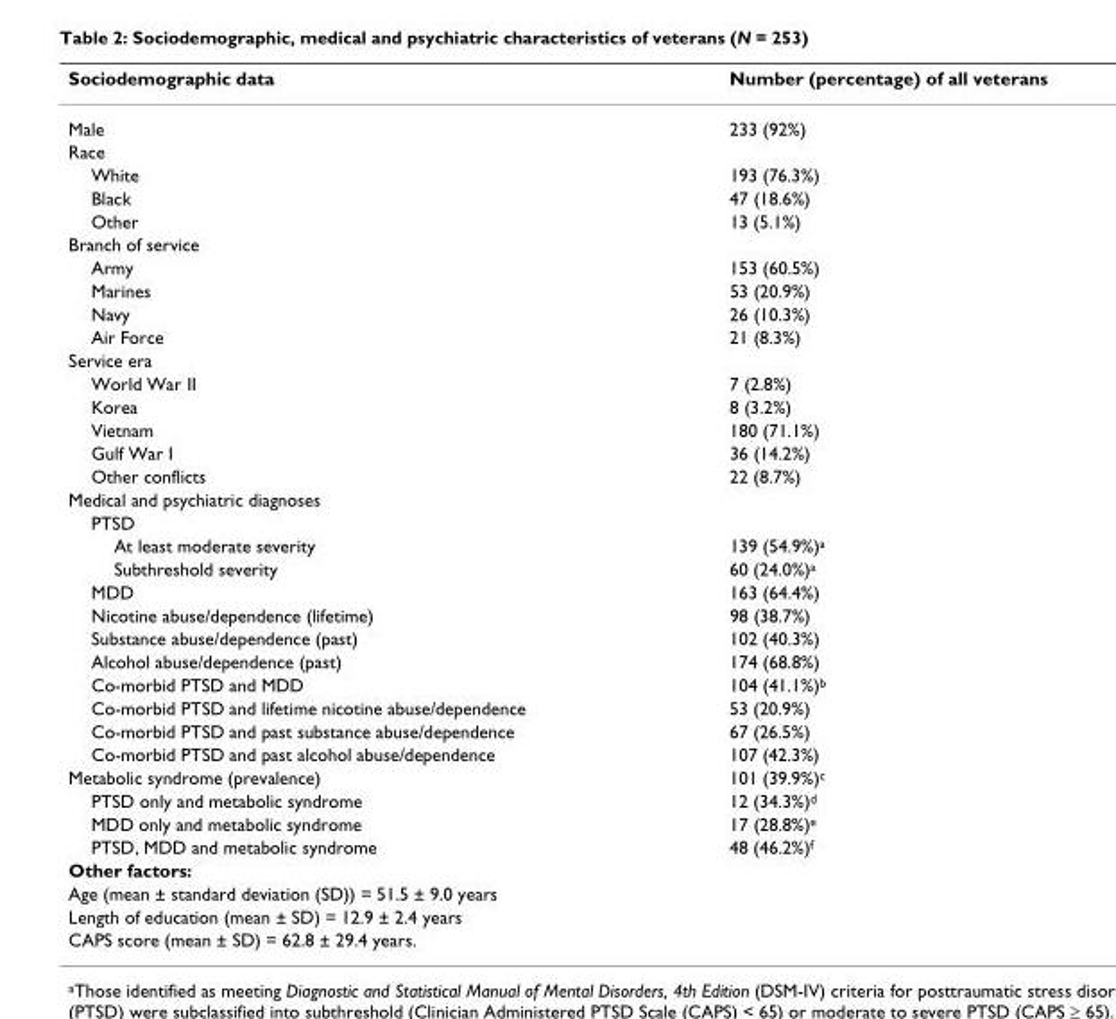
<table><thead><tr><td>Sociodemographic data</td><td>Number (percentage) of all veterans</td></tr></thead><tbody><tr><td>Male</td><td>233 (92%)</td></tr><tr><td colspan="2">Race</td></tr><tr><td>White</td><td>193 (76.3%)</td></tr><tr><td>Black</td><td>47 (18.6%)</td></tr><tr><td>Other</td><td>13 (5.1%)</td></tr><tr><td colspan="2">Branch of service</td></tr><tr><td>Army</td><td>153 (60.5%)</td></tr><tr><td>Marines</td><td>53 (20.9%)</td></tr><tr><td>Navy</td><td>26 (10.3%)</td></tr><tr><td>Air Force</td><td>21 (8.3%)</td></tr><tr><td colspan="2">Service era</td></tr><tr><td>World War II</td><td>7 (2.8%)</td></tr><tr><td>Korea</td><td>8 (3.2%)</td></tr><tr><td>Vietnam</td><td>180 (71.1%)</td></tr><tr><td>Gulf War I</td><td>36 (14.2%)</td></tr><tr><td>Other conflicts</td><td>22 (8.7%)</td></tr><tr><td colspan="2">Medical and psychiatric diagnoses</td></tr><tr><td colspan="2">PTSD</td></tr><tr><td>At least moderate severity</td><td>139 (54.9%)<sup>a</sup></td></tr><tr><td>Subthreshold severity</td><td>60 (24.0%)<sup>a</sup></td></tr><tr><td>MDD</td><td>163 (64.4%)</td></tr><tr><td>Nicotine abuse/dependence (lifetime)</td><td>98 (38.7%)</td></tr><tr><td>Substance abuse/dependence (past)</td><td>102 (40.3%)</td></tr><tr><td>Alcohol abuse/dependence (past)</td><td>174 (68.8%)</td></tr><tr><td>Co-morbid PTSD and MDD</td><td>104 (41.1%)<sup>b</sup></td></tr><tr><td>Co-morbid PTSD and lifetime nicotine abuse/dependence</td><td>53 (20.9%)</td></tr><tr><td>Co-morbid PTSD and past substance abuse/dependence</td><td>67 (26.5%)</td></tr><tr><td>Co-morbid PTSD and past alcohol abuse/dependence</td><td>107 (42.3%)</td></tr><tr><td>Metabolic syndrome (prevalence)</td><td>101 (39.9%)<sup>c</sup></td></tr><tr><td>PTSD only and metabolic syndrome</td><td>12 (34.3%)<sup>d</sup></td></tr><tr><td>MDD only and metabolic syndrome</td><td>17 (28.8%)<sup>e</sup></td></tr><tr><td>PTSD, MDD and metabolic syndrome</td><td>48 (46.2%)<sup>f</sup></td></tr><tr><td colspan="2">Other factors:</td></tr><tr><td colspan="2">Age (mean ± standard deviation (SD)) = 51.5 ± 9.0 years</td></tr><tr><td colspan="2">Length of education (mean ± SD) = 12.9 ± 2.4 years</td></tr><tr><td colspan="2">CAPS score (mean ± SD) = 62.8 ± 29.4 years.</td></tr></tbody></table>